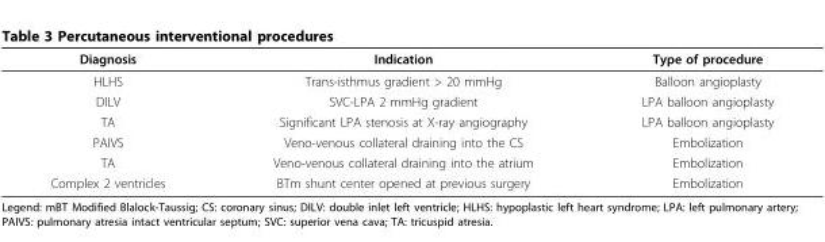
<table><thead><tr><td>Diagnosis</td><td>Indication</td><td>Type of procedure</td></tr></thead><tbody><tr><td>HLHS</td><td>Trans-isthmus gradient &gt; 20 mmHg</td><td>Balloon angioplasty</td></tr><tr><td>DILV</td><td>SVC-LPA 2 mmHg gradient</td><td>LPA balloon angioplasty</td></tr><tr><td>TA</td><td>Significant LPA stenosis at X-ray angiography</td><td>LPA balloon angioplasty</td></tr><tr><td>PAIVS</td><td>Veno-venous collateral draining into the CS</td><td>Embolization</td></tr><tr><td>TA</td><td>Veno-venous collateral draining into the atrium</td><td>Embolization</td></tr><tr><td>Complex 2 ventricles</td><td>BTm shunt center opened at previous surgery</td><td>Embolization</td></tr></tbody></table>